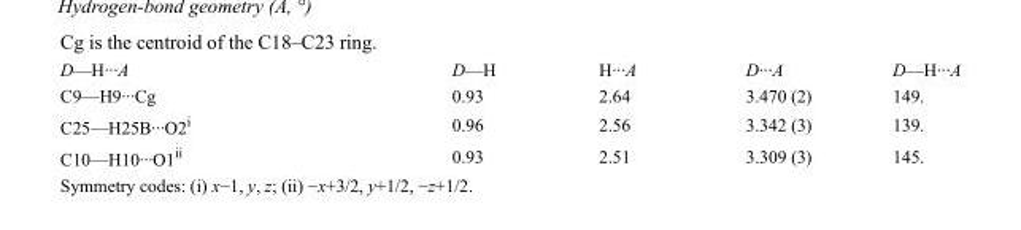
<table><tbody><tr><td>D—H···A</td><td>D—H</td><td>H···A</td><td>D···A</td><td>D—H···A</td></tr><tr><td>C9—H9···Cg</td><td>0.93</td><td>2.64</td><td>3.470 (2)</td><td>149.</td></tr><tr><td>C25—H25B···O2<sup>i</sup></td><td>0.96</td><td>2.56</td><td>3.342 (3)</td><td>139.</td></tr><tr><td>C10—H10···O1<sup>ii</sup></td><td>0.93</td><td>2.51</td><td>3.309 (3)</td><td>145.</td></tr></tbody></table>